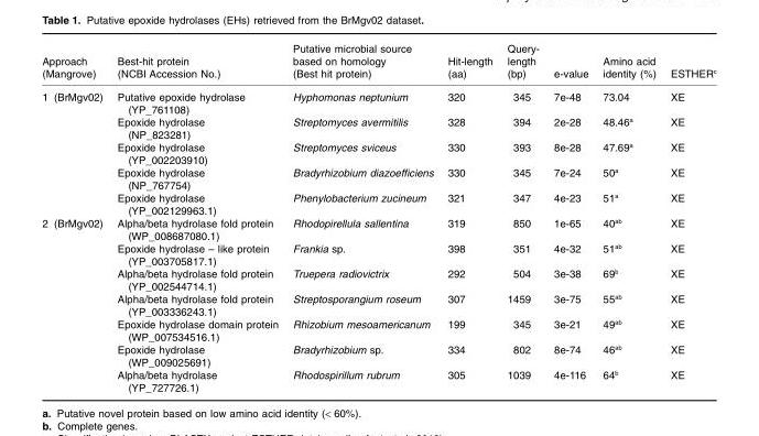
<table><thead><tr><td>Approach (Mangrove)</td><td>Best-hit protein (NCBI Accession No.)</td><td>Putative microbial source based on homology (Best hit protein)</td><td>Hit-length (aa)</td><td>Query- length (bp)</td><td>e-value</td><td>Amino acid identity (%)</td><td>ESTHER<sup>c</sup></td></tr></thead><tbody><tr><td rowspan="5">1 (BrMgv02)</td><td>Putative epoxide hydrolase (YP_761108)</td><td>Hyphomonas neptunium</td><td>320</td><td>345</td><td>7e-48</td><td>73.04</td><td>XE</td></tr><tr><td>Epoxide hydrolase (NP_823281)</td><td>Streptomyces avermitilis</td><td>328</td><td>394</td><td>2e-28</td><td>48.46<sup>a</sup></td><td>XE</td></tr><tr><td>Epoxide hydrolase (YP_002203910)</td><td>Streptomyces sviceus</td><td>330</td><td>393</td><td>8e-28</td><td>47.69<sup>a</sup></td><td>XE</td></tr><tr><td>Epoxide hydrolase (NP_767754)</td><td>Bradyrhizobium diazoefficiens</td><td>330</td><td>345</td><td>7e-24</td><td>50<sup>a</sup></td><td>XE</td></tr><tr><td>Epoxide hydrolase (YP_002129963.1)</td><td>Phenylobacterium zucineum</td><td>321</td><td>347</td><td>4e-23</td><td>51<sup>a</sup></td><td>XE</td></tr><tr><td rowspan="7">2 (BrMgv02)</td><td>Alpha/beta hydrolase fold protein (WP_008687080.1)</td><td>Rhodopirellula sallentina</td><td>319</td><td>850</td><td>1e-65</td><td>40<sup>ab</sup></td><td>XE</td></tr><tr><td>Epoxide hydrolase – like protein (YP_003705817.1)</td><td>Frankia sp.</td><td>398</td><td>351</td><td>4e-32</td><td>51<sup>ab</sup></td><td>XE</td></tr><tr><td>Alpha/beta hydrolase fold protein (YP_002544714.1)</td><td>Truepera radiovictrix</td><td>292</td><td>504</td><td>3e-38</td><td>69<sup>b</sup></td><td>XE</td></tr><tr><td>Alpha/beta hydrolase fold protein (YP_003336243.1)</td><td>Streptosporangium roseum</td><td>307</td><td>1459</td><td>3e-75</td><td>55<sup>ab</sup></td><td>XE</td></tr><tr><td>Epoxide hydrolase domain protein (WP_007534516.1)</td><td>Rhizobium mesoamericanum</td><td>199</td><td>345</td><td>3e-21</td><td>49<sup>ab</sup></td><td>XE</td></tr><tr><td>Epoxide hydrolase (WP_009025691)</td><td>Bradyrhizobium sp.</td><td>334</td><td>802</td><td>8e-74</td><td>46<sup>ab</sup></td><td>XE</td></tr><tr><td>Alpha/beta hydrolase (YP_727726.1)</td><td>Rhodospirillum rubrum</td><td>305</td><td>1039</td><td>4e-116</td><td>64<sup>b</sup></td><td>XE</td></tr></tbody></table>